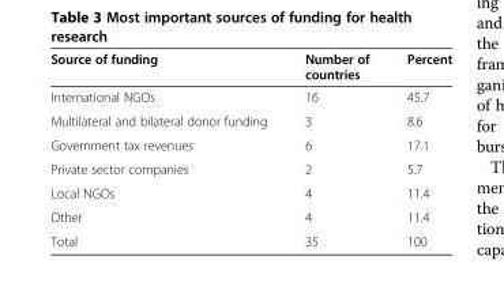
<table><thead><tr><td>Source of funding</td><td>Number of countries</td><td>Percent</td></tr></thead><tbody><tr><td>International NGOs</td><td>16</td><td>45.7</td></tr><tr><td>Multilateral and bilateral donor funding</td><td>3</td><td>8.6</td></tr><tr><td>Government tax revenues</td><td>6</td><td>17.1</td></tr><tr><td>Private sector companies</td><td>2</td><td>5.7</td></tr><tr><td>Local NGOs</td><td>4</td><td>11.4</td></tr><tr><td>Other</td><td>4</td><td>11.4</td></tr><tr><td>Total</td><td>35</td><td>100</td></tr></tbody></table>